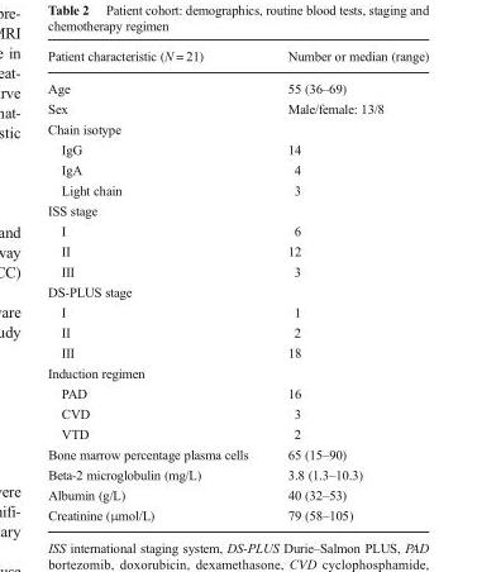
<table><thead><tr><td>Patient characteristic (N = 21)</td><td>Number or median (range)</td></tr></thead><tbody><tr><td>Age</td><td>55 (36–69)</td></tr><tr><td>Sex</td><td>Male/female: 13/8</td></tr><tr><td colspan="2">Chain isotype</td></tr><tr><td>IgG</td><td>14</td></tr><tr><td>IgA</td><td>4</td></tr><tr><td>Light chain</td><td>3</td></tr><tr><td colspan="2">ISS stage</td></tr><tr><td>I</td><td>6</td></tr><tr><td>II</td><td>12</td></tr><tr><td>III</td><td>3</td></tr><tr><td colspan="2">DS-PLUS stage</td></tr><tr><td>I</td><td>1</td></tr><tr><td>II</td><td>2</td></tr><tr><td>III</td><td>18</td></tr><tr><td colspan="2">Induction regimen</td></tr><tr><td>PAD</td><td>16</td></tr><tr><td>CVD</td><td>3</td></tr><tr><td>VTD</td><td>2</td></tr><tr><td>Bone marrow percentage plasma cells</td><td>65 (15–90)</td></tr><tr><td>Beta-2 microglobulin (mg/L)</td><td>3.8 (1.3–10.3)</td></tr><tr><td>Albumin (g/L)</td><td>40 (32–53)</td></tr><tr><td>Creatinine (μmol/L)</td><td>79 (58–105)</td></tr></tbody></table>